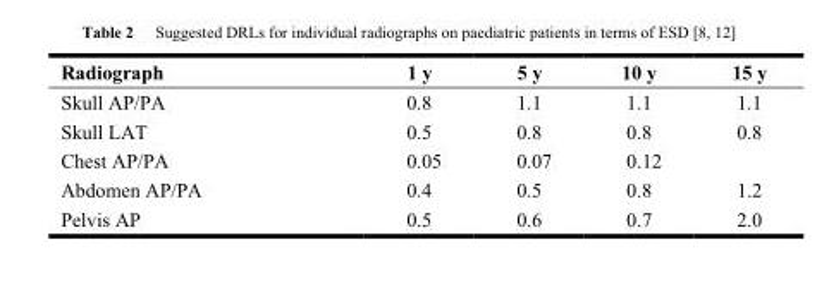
<table><thead><tr><td>Radiograph</td><td>1 y</td><td>5 y</td><td>10 y</td><td>15 y</td></tr></thead><tbody><tr><td>Skull AP/PA</td><td>0.8</td><td>1.1</td><td>1.1</td><td>1.1</td></tr><tr><td>Skull LAT</td><td>0.5</td><td>0.8</td><td>0.8</td><td>0.8</td></tr><tr><td>Chest AP/PA</td><td>0.05</td><td>0.07</td><td>0.12</td><td></td></tr><tr><td>Abdomen AP/PA</td><td>0.4</td><td>0.5</td><td>0.8</td><td>1.2</td></tr><tr><td>Pelvis AP</td><td>0.5</td><td>0.6</td><td>0.7</td><td>2.0</td></tr></tbody></table>